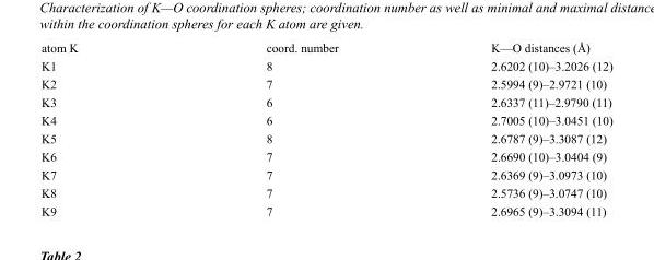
<table><tbody><tr><td>atom K</td><td>coord. number</td><td>K—O distances (Å)</td></tr><tr><td>K1</td><td>8</td><td>2.6202 (10)–3.2026 (12)</td></tr><tr><td>K2</td><td>7</td><td>2.5994 (9)–2.9721 (10)</td></tr><tr><td>K3</td><td>6</td><td>2.6337 (11)–2.9790 (11)</td></tr><tr><td>K4</td><td>6</td><td>2.7005 (10)–3.0451 (10)</td></tr><tr><td>K5</td><td>8</td><td>2.6787 (9)–3.3087 (12)</td></tr><tr><td>K6</td><td>7</td><td>2.6690 (10)–3.0404 (9)</td></tr><tr><td>K7</td><td>7</td><td>2.6369 (9)–3.0973 (10)</td></tr><tr><td>K8</td><td>7</td><td>2.5736 (9)–3.0747 (10)</td></tr><tr><td>K9</td><td>7</td><td>2.6965 (9)–3.3094 (11)</td></tr></tbody></table>